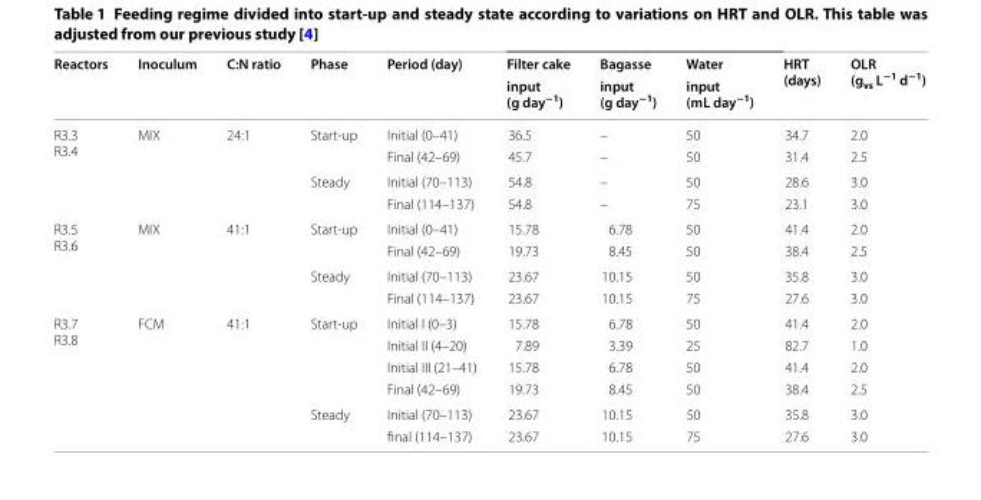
<table><thead><tr><td rowspan="2">Reactors</td><td rowspan="2">Inoculum</td><td rowspan="2">C:N ratio</td><td rowspan="2">Phase</td><td rowspan="2">Period (day)</td><td rowspan="2">Filter cake input (g day<sup>−1</sup>)</td><td rowspan="2">Bagasse input (g day<sup>−1</sup>)</td><td rowspan="2">Water input (mL day<sup>−1</sup>)</td><td rowspan="2">HRT (days)</td><td rowspan="2">OLR (g<sub>vs</sub> L<sup>−1</sup> d<sup>−1</sup>)</td></tr><tr></tr></thead><tbody><tr><td rowspan="4">R3.3 R3.4</td><td rowspan="4">MIX</td><td rowspan="4">24:1</td><td rowspan="2">Start‑up</td><td>Initial (0–41)</td><td>36.5</td><td>–</td><td>50</td><td>34.7</td><td>2.0</td></tr><tr><td>Final (42–69)</td><td>45.7</td><td>–</td><td>50</td><td>31.4</td><td>2.5</td></tr><tr><td rowspan="2">Steady</td><td>Initial (70–113)</td><td>54.8</td><td>–</td><td>50</td><td>28.6</td><td>3.0</td></tr><tr><td>Final (114–137)</td><td>54.8</td><td>–</td><td>75</td><td>23.1</td><td>3.0</td></tr><tr><td rowspan="4">R3.5 R3.6</td><td rowspan="4">MIX</td><td rowspan="4">41:1</td><td rowspan="2">Start‑up</td><td>Initial (0–41)</td><td>15.78</td><td>6.78</td><td>50</td><td>41.4</td><td>2.0</td></tr><tr><td>Final (42–69)</td><td>19.73</td><td>8.45</td><td>50</td><td>38.4</td><td>2.5</td></tr><tr><td rowspan="2">Steady</td><td>Initial (70–113)</td><td>23.67</td><td>10.15</td><td>50</td><td>35.8</td><td>3.0</td></tr><tr><td>Final (114–137)</td><td>23.67</td><td>10.15</td><td>75</td><td>27.6</td><td>3.0</td></tr><tr><td rowspan="6">R3.7 R3.8</td><td rowspan="6">FCM</td><td rowspan="6">41:1</td><td rowspan="4">Start‑up</td><td>Initial I (0–3)</td><td>15.78</td><td>6.78</td><td>50</td><td>41.4</td><td>2.0</td></tr><tr><td>Initial II (4–20)</td><td>7.89</td><td>3.39</td><td>25</td><td>82.7</td><td>1.0</td></tr><tr><td>Initial III (21–41)</td><td>15.78</td><td>6.78</td><td>50</td><td>41.4</td><td>2.0</td></tr><tr><td>Final (42–69)</td><td>19.73</td><td>8.45</td><td>50</td><td>38.4</td><td>2.5</td></tr><tr><td rowspan="2">Steady</td><td>Initial (70–113)</td><td>23.67</td><td>10.15</td><td>50</td><td>35.8</td><td>3.0</td></tr><tr><td>final (114–137)</td><td>23.67</td><td>10.15</td><td>75</td><td>27.6</td><td>3.0</td></tr></tbody></table>